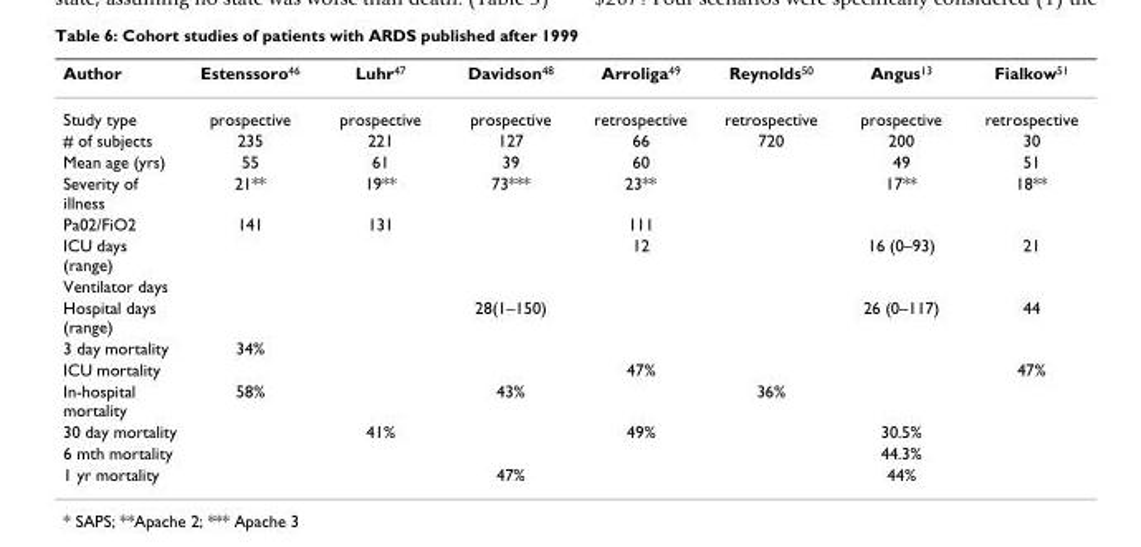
<table><thead><tr><td>Author</td><td>Estenssoro<sup>46</sup></td><td>Luhr<sup>47</sup></td><td>Davidson<sup>48</sup></td><td>Arroliga<sup>49</sup></td><td>Reynolds<sup>50</sup></td><td>Angus<sup>13</sup></td><td>Fialkow<sup>51</sup></td></tr></thead><tbody><tr><td>Study type</td><td>prospective</td><td>prospective</td><td>prospective</td><td>retrospective</td><td>retrospective</td><td>prospective</td><td>retrospective</td></tr><tr><td># of subjects</td><td>235</td><td>221</td><td>127</td><td>66</td><td>720</td><td>200</td><td>30</td></tr><tr><td>Mean age (yrs)</td><td>55</td><td>61</td><td>39</td><td>60</td><td></td><td>49</td><td>51</td></tr><tr><td>Severity of illness</td><td>21**</td><td>19**</td><td>73***</td><td>23**</td><td></td><td>17**</td><td>18**</td></tr><tr><td>Pa02/FiO2</td><td>141</td><td>131</td><td></td><td>111</td><td></td><td></td><td></td></tr><tr><td>ICU days (range)</td><td></td><td></td><td></td><td>12</td><td></td><td>16 (0–93)</td><td>21</td></tr><tr><td colspan="8">Ventilator days</td></tr><tr><td>Hospital days (range)</td><td></td><td></td><td>28(1–150)</td><td></td><td></td><td>26 (0–117)</td><td>44</td></tr><tr><td>3 day mortality</td><td>34%</td><td></td><td></td><td></td><td></td><td></td><td></td></tr><tr><td>ICU mortality</td><td></td><td></td><td></td><td>47%</td><td></td><td></td><td>47%</td></tr><tr><td>In-hospital mortality</td><td>58%</td><td></td><td>43%</td><td></td><td>36%</td><td></td><td></td></tr><tr><td>30 day mortality</td><td></td><td>41%</td><td></td><td>49%</td><td></td><td>30.5%</td><td></td></tr><tr><td>6 mth mortality</td><td></td><td></td><td></td><td></td><td></td><td>44.3%</td><td></td></tr><tr><td>1 yr mortality</td><td></td><td></td><td>47%</td><td></td><td></td><td>44%</td><td></td></tr></tbody></table>